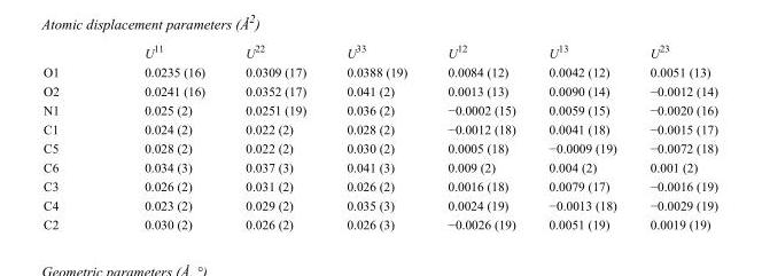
<table><thead><tr><td></td><td>U<sup>11</sup></td><td>U<sup>22</sup></td><td>U<sup>33</sup></td><td>U<sup>12</sup></td><td>U<sup>13</sup></td><td>U<sup>23</sup></td></tr></thead><tbody><tr><td>O1</td><td>0.0235 (16)</td><td>0.0309 (17)</td><td>0.0388 (19)</td><td>0.0084 (12)</td><td>0.0042 (12)</td><td>0.0051 (13)</td></tr><tr><td>O2</td><td>0.0241 (16)</td><td>0.0352 (17)</td><td>0.041 (2)</td><td>0.0013 (13)</td><td>0.0090 (14)</td><td>−0.0012 (14)</td></tr><tr><td>N1</td><td>0.025 (2)</td><td>0.0251 (19)</td><td>0.036 (2)</td><td>−0.0002 (15)</td><td>0.0059 (15)</td><td>−0.0020 (16)</td></tr><tr><td>C1</td><td>0.024 (2)</td><td>0.022 (2)</td><td>0.028 (2)</td><td>−0.0012 (18)</td><td>0.0041 (18)</td><td>−0.0015 (17)</td></tr><tr><td>C5</td><td>0.028 (2)</td><td>0.022 (2)</td><td>0.030 (2)</td><td>0.0005 (18)</td><td>−0.0009 (19)</td><td>−0.0072 (18)</td></tr><tr><td>C6</td><td>0.034 (3)</td><td>0.037 (3)</td><td>0.041 (3)</td><td>0.009 (2)</td><td>0.004 (2)</td><td>0.001 (2)</td></tr><tr><td>C3</td><td>0.026 (2)</td><td>0.031 (2)</td><td>0.026 (2)</td><td>0.0016 (18)</td><td>0.0079 (17)</td><td>−0.0016 (19)</td></tr><tr><td>C4</td><td>0.023 (2)</td><td>0.029 (2)</td><td>0.035 (3)</td><td>0.0024 (19)</td><td>−0.0013 (18)</td><td>−0.0029 (19)</td></tr><tr><td>C2</td><td>0.030 (2)</td><td>0.026 (2)</td><td>0.026 (3)</td><td>−0.0026 (19)</td><td>0.0051 (19)</td><td>0.0019 (19)</td></tr></tbody></table>